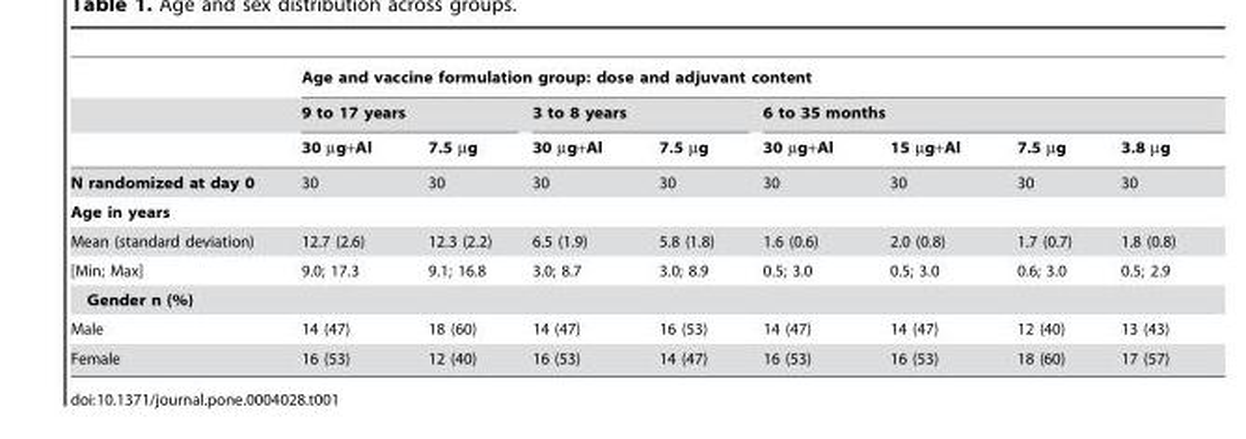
<table><thead><tr><td rowspan="3"></td><td colspan="8">Age and vaccine formulation group: dose and adjuvant content</td></tr><tr><td colspan="2">9 to 17 years</td><td colspan="2">3 to 8 years</td><td colspan="4">6 to 35 months</td></tr><tr><td>30 µg+Al</td><td>7.5 µg</td><td>30 µg+Al</td><td>7.5 µg</td><td>30 µg+Al</td><td>15 µg+Al</td><td>7.5 µg</td><td>3.8 µg</td></tr></thead><tbody><tr><td>N randomized at day 0</td><td>30</td><td>30</td><td>30</td><td>30</td><td>30</td><td>30</td><td>30</td><td>30</td></tr><tr><td colspan="9">Age in years</td></tr><tr><td>Mean (standard deviation)</td><td>12.7 (2.6)</td><td>12.3 (2.2)</td><td>6.5 (1.9)</td><td>5.8 (1.8)</td><td>1.6 (0.6)</td><td>2.0 (0.8)</td><td>1.7 (0.7)</td><td>1.8 (0.8)</td></tr><tr><td>[Min; Max]</td><td>9.0; 17.3</td><td>9.1; 16.8</td><td>3.0; 8.7</td><td>3.0; 8.9</td><td>0.5; 3.0</td><td>0.5; 3.0</td><td>0.6; 3.0</td><td>0.5; 2.9</td></tr><tr><td colspan="9">Gender n (%)</td></tr><tr><td>Male</td><td>14 (47)</td><td>18 (60)</td><td>14 (47)</td><td>16 (53)</td><td>14 (47)</td><td>14 (47)</td><td>12 (40)</td><td>13 (43)</td></tr><tr><td>Female</td><td>16 (53)</td><td>12 (40)</td><td>16 (53)</td><td>14 (47)</td><td>16 (53)</td><td>16 (53)</td><td>18 (60)</td><td>17 (57)</td></tr></tbody></table>